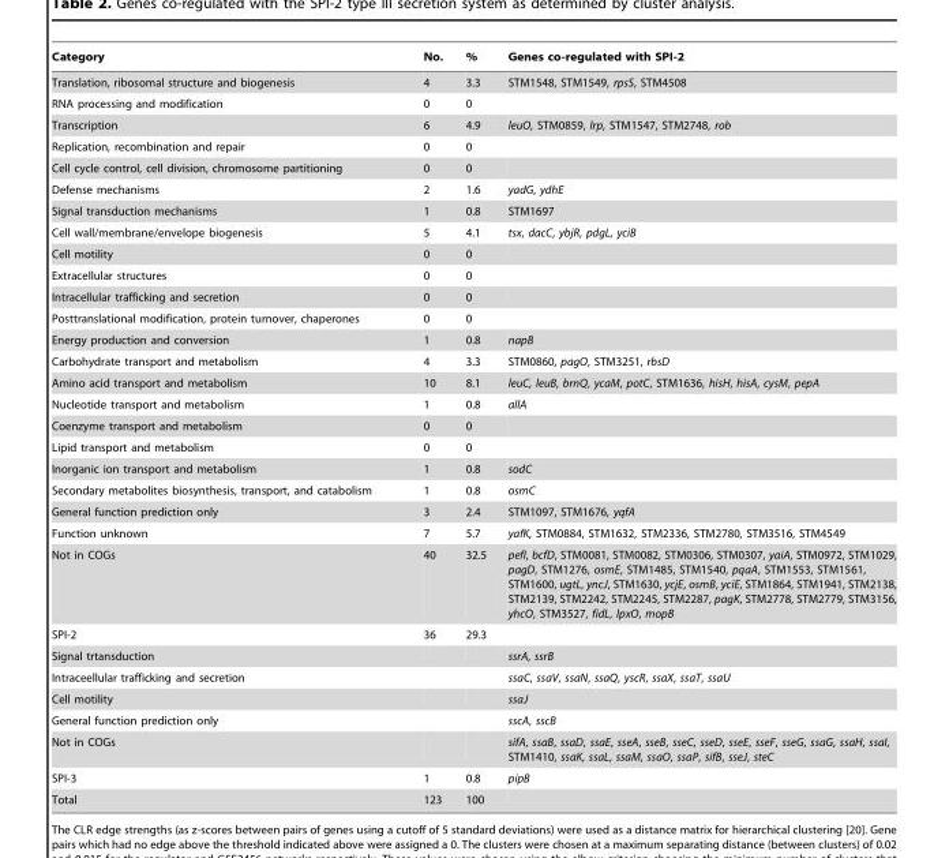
<table><thead><tr><td>Category</td><td>No.</td><td>%</td><td>Genes co-regulated with SPI-2</td></tr></thead><tbody><tr><td>Translation, ribosomal structure and biogenesis</td><td>4</td><td>3.3</td><td>STM1548, STM1549, rpsS, STM4508</td></tr><tr><td>RNA processing and modification</td><td>0</td><td>0</td><td></td></tr><tr><td>Transcription</td><td>6</td><td>4.9</td><td>leuO, STM0859, lrp, STM1547, STM2748, rob</td></tr><tr><td>Replication, recombination and repair</td><td>0</td><td>0</td><td></td></tr><tr><td>Cell cycle control, cell division, chromosome partitioning</td><td>0</td><td>0</td><td></td></tr><tr><td>Defense mechanisms</td><td>2</td><td>1.6</td><td>yadG, ydhE</td></tr><tr><td>Signal transduction mechanisms</td><td>1</td><td>0.8</td><td>STM1697</td></tr><tr><td>Cell wall/membrane/envelope biogenesis</td><td>5</td><td>4.1</td><td>tsx, dacC, ybjR, pdgL, yciB</td></tr><tr><td>Cell motility</td><td>0</td><td>0</td><td></td></tr><tr><td>Extracellular structures</td><td>0</td><td>0</td><td></td></tr><tr><td>Intracellular trafficking and secretion</td><td>0</td><td>0</td><td></td></tr><tr><td>Posttranslational modification, protein turnover, chaperones</td><td>0</td><td>0</td><td></td></tr><tr><td>Energy production and conversion</td><td>1</td><td>0.8</td><td>napB</td></tr><tr><td>Carbohydrate transport and metabolism</td><td>4</td><td>3.3</td><td>STM0860, pagO, STM3251, rbsD</td></tr><tr><td>Amino acid transport and metabolism</td><td>10</td><td>8.1</td><td>leuC, leuB, brnQ, ycaM, potC, STM1636, hisH, hisA, cysM, pepA</td></tr><tr><td>Nucleotide transport and metabolism</td><td>1</td><td>0.8</td><td>allA</td></tr><tr><td>Coenzyme transport and metabolism</td><td>0</td><td>0</td><td></td></tr><tr><td>Lipid transport and metabolism</td><td>0</td><td>0</td><td></td></tr><tr><td>Inorganic ion transport and metabolism</td><td>1</td><td>0.8</td><td>sodC</td></tr><tr><td>Secondary metabolites biosynthesis, transport, and catabolism</td><td>1</td><td>0.8</td><td>osmC</td></tr><tr><td>General function prediction only</td><td>3</td><td>2.4</td><td>STM1097, STM1676, yqfA</td></tr><tr><td>Function unknown</td><td>7</td><td>5.7</td><td>yafK, STM0884, STM1632, STM2336, STM2780, STM3516, STM4549</td></tr><tr><td>Not in COGs</td><td>40</td><td>32.5</td><td>pefI, bcfD, STM0081, STM0082, STM0306, STM0307, yaiA, STM0972, STM1029, pagD, STM1276, osmE, STM1485, STM1540, pqaA, STM1553, STM1561, STM1600, ugtL, yncJ, STM1630, ycjE, osmB, yciE, STM1864, STM1941, STM2138, STM2139, STM2242, STM2245, STM2287, pagK, STM2778, STM2779, STM3156, yhcO, STM3527, fidL, lpxO, mopB</td></tr><tr><td>SPI-2</td><td>36</td><td>29.3</td><td></td></tr><tr><td>Signal trtansduction</td><td></td><td></td><td>ssrA, ssrB</td></tr><tr><td>Intraceellular trafficking and secretion</td><td></td><td></td><td>ssaC, ssaV, ssaN, ssaQ, yscR, ssaX, ssaT, ssaU</td></tr><tr><td>Cell motility</td><td></td><td></td><td>ssaJ</td></tr><tr><td>General function prediction only</td><td></td><td></td><td>sscA, sscB</td></tr><tr><td>Not in COGs</td><td></td><td></td><td>sifA, ssaB, ssaD, ssaE, sseA, sseB, sseC, sseD, sseE, sseF, sseG, ssaG, ssaH, ssaI, STM1410, ssaK, ssaL, ssaM, ssaO, ssaP, sifB, sseJ, steC</td></tr><tr><td>SPI-3</td><td>1</td><td>0.8</td><td>pipB</td></tr><tr><td>Total</td><td>123</td><td>100</td><td></td></tr></tbody></table>